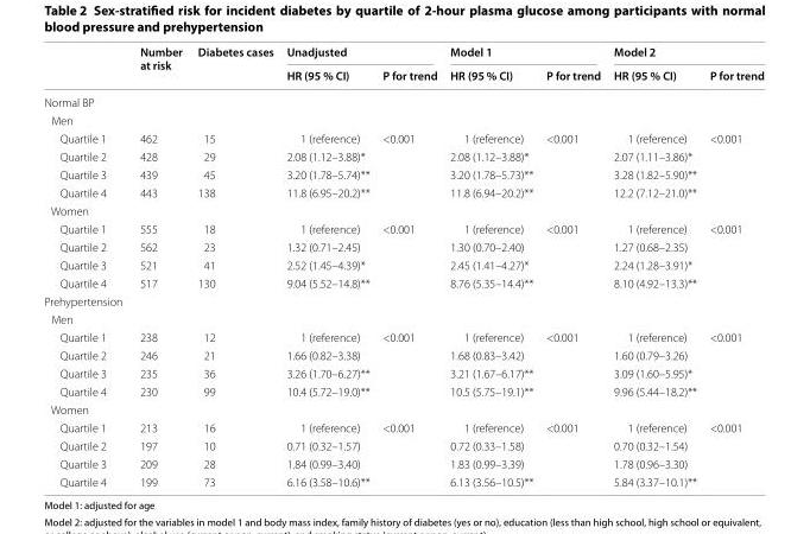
<table><thead><tr><td rowspan="2"></td><td rowspan="2">Number at risk</td><td rowspan="2">Diabetes cases</td><td colspan="2">Unadjusted</td><td colspan="2">Model 1</td><td colspan="2">Model 2</td></tr><tr><td>HR (95 % CI)</td><td>P for trend</td><td>HR (95 % CI)</td><td>P for trend</td><td>HR (95 % CI)</td><td>P for trend</td></tr></thead><tbody><tr><td colspan="9">Normal BP</td></tr><tr><td colspan="9">Men</td></tr><tr><td>Quartile 1</td><td>462</td><td>15</td><td>1 (reference)</td><td rowspan="4">&lt;0.001</td><td>1 (reference)</td><td rowspan="4">&lt;0.001</td><td>1 (reference)</td><td rowspan="4">&lt;0.001</td></tr><tr><td>Quartile 2</td><td>428</td><td>29</td><td>2.08 (1.12–3.88)*</td><td>2.08 (1.12–3.88)*</td><td>2.07 (1.11–3.86)*</td></tr><tr><td>Quartile 3</td><td>439</td><td>45</td><td>3.20 (1.78–5.74)**</td><td>3.20 (1.78–5.73)**</td><td>3.28 (1.82–5.90)**</td></tr><tr><td>Quartile 4</td><td>443</td><td>138</td><td>11.8 (6.95–20.2)**</td><td>11.8 (6.94–20.2)**</td><td>12.2 (7.12–21.0)**</td></tr><tr><td colspan="9">Women</td></tr><tr><td>Quartile 1</td><td>555</td><td>18</td><td>1 (reference)</td><td rowspan="4">&lt;0.001</td><td>1 (reference)</td><td rowspan="4">&lt;0.001</td><td>1 (reference)</td><td rowspan="4">&lt;0.001</td></tr><tr><td>Quartile 2</td><td>562</td><td>23</td><td>1.32 (0.71–2.45)</td><td>1.30 (0.70–2.40)</td><td>1.27 (0.68–2.35)</td></tr><tr><td>Quartile 3</td><td>521</td><td>41</td><td>2.52 (1.45–4.39)*</td><td>2.45 (1.41–4.27)*</td><td>2.24 (1.28–3.91)*</td></tr><tr><td>Quartile 4</td><td>517</td><td>130</td><td>9.04 (5.52–14.8)**</td><td>8.76 (5.35–14.4)**</td><td>8.10 (4.92–13.3)**</td></tr><tr><td colspan="9">Prehypertension</td></tr><tr><td colspan="9">Men</td></tr><tr><td>Quartile 1</td><td>238</td><td>12</td><td>1 (reference)</td><td rowspan="4">&lt;0.001</td><td>1 (reference)</td><td rowspan="4">&lt;0.001</td><td>1 (reference)</td><td rowspan="4">&lt;0.001</td></tr><tr><td>Quartile 2</td><td>246</td><td>21</td><td>1.66 (0.82–3.38)</td><td>1.68 (0.83–3.42)</td><td>1.60 (0.79–3.26)</td></tr><tr><td>Quartile 3</td><td>235</td><td>36</td><td>3.26 (1.70–6.27)**</td><td>3.21 (1.67–6.17)**</td><td>3.09 (1.60–5.95)*</td></tr><tr><td>Quartile 4</td><td>230</td><td>99</td><td>10.4 (5.72–19.0)**</td><td>10.5 (5.75–19.1)**</td><td>9.96 (5.44–18.2)**</td></tr><tr><td colspan="9">Women</td></tr><tr><td>Quartile 1</td><td>213</td><td>16</td><td>1 (reference)</td><td rowspan="4">&lt;0.001</td><td>1 (reference)</td><td rowspan="4">&lt;0.001</td><td>1 (reference)</td><td rowspan="4">&lt;0.001</td></tr><tr><td>Quartile 2</td><td>197</td><td>10</td><td>0.71 (0.32–1.57)</td><td>0.72 (0.33–1.58)</td><td>0.70 (0.32–1.54)</td></tr><tr><td>Quartile 3</td><td>209</td><td>28</td><td>1.84 (0.99–3.40)</td><td>1.83 (0.99–3.39)</td><td>1.78 (0.96–3.30)</td></tr><tr><td>Quartile 4</td><td>199</td><td>73</td><td>6.16 (3.58–10.6)**</td><td>6.13 (3.56–10.5)**</td><td>5.84 (3.37–10.1)**</td></tr></tbody></table>